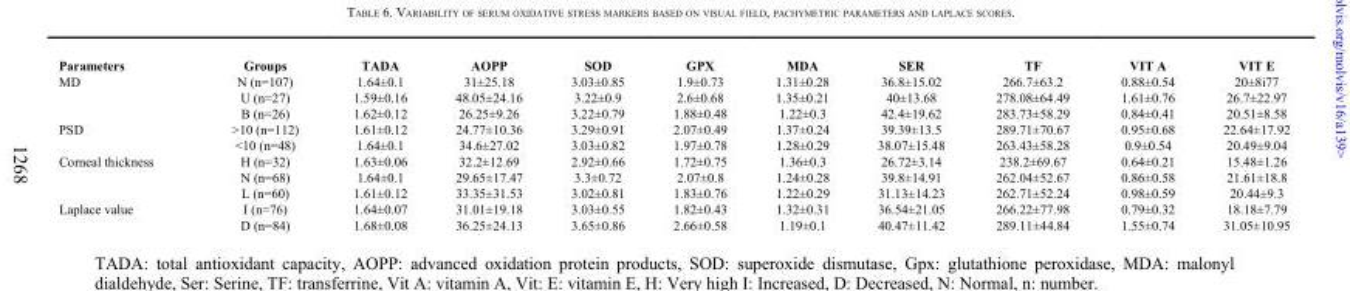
<table><thead><tr><td>Parameters</td><td>Groups</td><td>TADA</td><td>AOPP</td><td>SOD</td><td>GPX</td><td>MDA</td><td>SER</td><td>TF</td><td>VIT A</td><td>VIT E</td></tr></thead><tbody><tr><td rowspan="3">MD</td><td>N (n=107)</td><td>1.64±0.1</td><td>31±25.18</td><td>3.03±0.85</td><td>1.9±0.73</td><td>1.31±0.28</td><td>36.8±15.02</td><td>266.7±63.2</td><td>0.88±0.54</td><td>20±8i77</td></tr><tr><td>U (n=27)</td><td>1.59±0.16</td><td>48.05±24.16</td><td>3.22±0.9</td><td>2.6±0.68</td><td>1.35±0.21</td><td>40±13.68</td><td>278.08±64.49</td><td>1.61±0.76</td><td>26.7±22.97</td></tr><tr><td>B (n=26)</td><td>1.62±0.12</td><td>26.25±9.26</td><td>3.22±0.79</td><td>1.88±0.48</td><td>1.22±0.3</td><td>42.4±19.62</td><td>283.73±58.29</td><td>0.84±0.41</td><td>20.51±8.58</td></tr><tr><td rowspan="2">PSD</td><td>&gt;10 (n=112)</td><td>1.61±0.12</td><td>24.77±10.36</td><td>3.29±0.91</td><td>2.07±0.49</td><td>1.37±0.24</td><td>39.39±13.5</td><td>289.71±70.67</td><td>0.95±0.68</td><td>22.64±17.92</td></tr><tr><td>&lt;10 (n=48)</td><td>1.64±0.1</td><td>34.6±27.02</td><td>3.03±0.82</td><td>1.97±0.78</td><td>1.28±0.29</td><td>38.07±15.48</td><td>263.43±58.28</td><td>0.9±0.54</td><td>20.49±9.04</td></tr><tr><td rowspan="3">Corneal thickness</td><td>H (n=32)</td><td>1.63±0.06</td><td>32.2±12.69</td><td>2.92±0.66</td><td>1.72±0.75</td><td>1.36±0.3</td><td>26.72±3.14</td><td>238.2±69.67</td><td>0.64±0.21</td><td>15.48±1.26</td></tr><tr><td>N (n=68)</td><td>1.64±0.1</td><td>29.65±17.47</td><td>3.3±0.72</td><td>2.07±0.8</td><td>1.24±0.28</td><td>39.8±14.91</td><td>262.04±52.67</td><td>0.86±0.58</td><td>21.61±18.8</td></tr><tr><td>L (n=60)</td><td>1.61±0.12</td><td>33.35±31.53</td><td>3.02±0.81</td><td>1.83±0.76</td><td>1.22±0.29</td><td>31.13±14.23</td><td>262.71±52.24</td><td>0.98±0.59</td><td>20.44±9.3</td></tr><tr><td rowspan="2">Laplace value</td><td>I (n=76)</td><td>1.64±0.07</td><td>31.01±19.18</td><td>3.03±0.55</td><td>1.82±0.43</td><td>1.32±0.31</td><td>36.54±21.05</td><td>266.22±77.98</td><td>0.79±0.32</td><td>18.18±7.79</td></tr><tr><td>D (n=84)</td><td>1.68±0.08</td><td>36.25±24.13</td><td>3.65±0.86</td><td>2.66±0.58</td><td>1.19±0.1</td><td>40.47±11.42</td><td>289.11±44.84</td><td>1.55±0.74</td><td>31.05±10.95</td></tr></tbody></table>